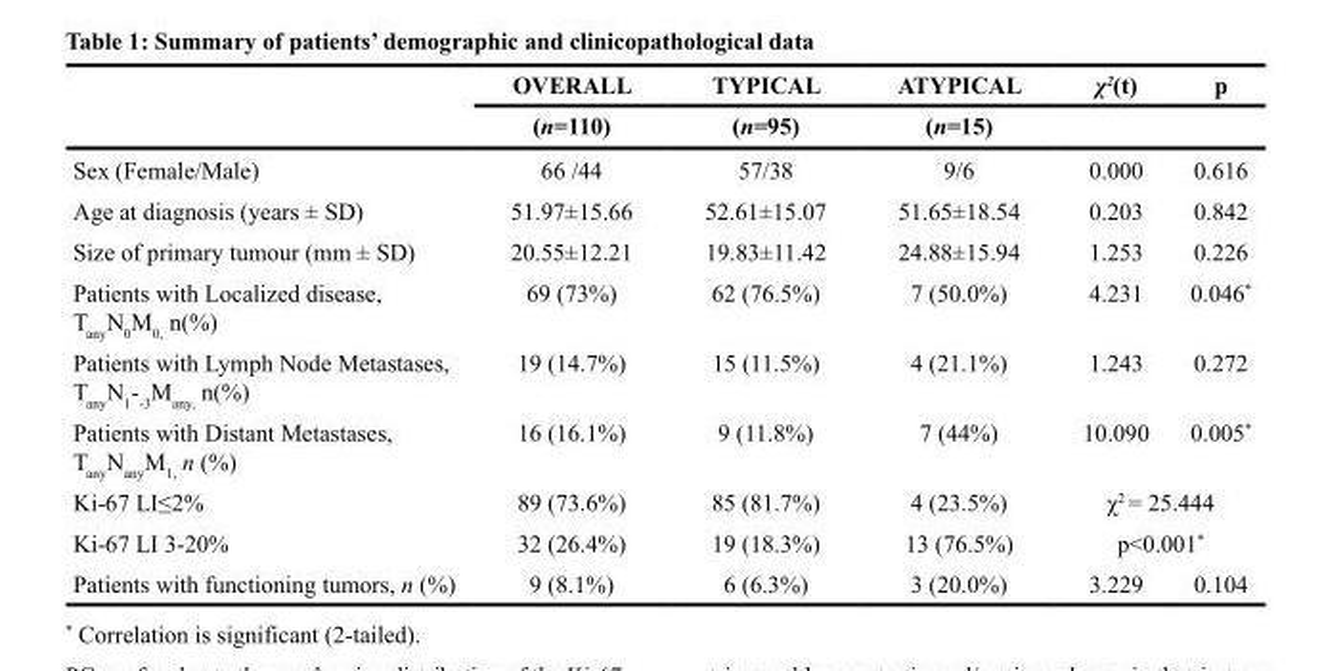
<table><thead><tr><td rowspan="2"></td><td rowspan="2">OVERALL (n=110)</td><td rowspan="2">TYPICAL (n=95)</td><td rowspan="2">ATYPICAL (n=15)</td><td rowspan="2">χ<sup>2</sup>(t)</td><td rowspan="2">p</td></tr><tr></tr></thead><tbody><tr><td>Sex (Female/Male)</td><td>66 /44</td><td>57/38</td><td>9/6</td><td>0.000</td><td>0.616</td></tr><tr><td>Age at diagnosis (years ± SD)</td><td>51.97±15.66</td><td>52.61±15.07</td><td>51.65±18.54</td><td>0.203</td><td>0.842</td></tr><tr><td>Size of primary tumour (mm ± SD)</td><td>20.55±12.21</td><td>19.83±11.42</td><td>24.88±15.94</td><td>1.253</td><td>0.226</td></tr><tr><td>Patients with Localized disease, T<sub>any</sub>N<sub>0</sub>M<sub>0,</sub> n(%)</td><td>69 (73%)</td><td>62 (76.5%)</td><td>7 (50.0%)</td><td>4.231</td><td>0.046*</td></tr><tr><td>Patients with Lymph Node Metastases, T<sub>any</sub>N<sub>1</sub>-<sub>-3</sub>M<sub>any,</sub> n(%)</td><td>19 (14.7%)</td><td>15 (11.5%)</td><td>4 (21.1%)</td><td>1.243</td><td>0.272</td></tr><tr><td>Patients with Distant Metastases, T<sub>any</sub>N<sub>any</sub>M<sub>1,</sub> n (%)</td><td>16 (16.1%)</td><td>9 (11.8%)</td><td>7 (44%)</td><td>10.090</td><td>0.005*</td></tr><tr><td>Ki-67 LI≤2%</td><td>89 (73.6%)</td><td>85 (81.7%)</td><td>4 (23.5%)</td><td colspan="2">χ2 = 25.444</td></tr><tr><td>Ki-67 LI 3-20%</td><td>32 (26.4%)</td><td>19 (18.3%)</td><td>13 (76.5%)</td><td colspan="2">p&lt;0.001*</td></tr><tr><td>Patients with functioning tumors, n (%)</td><td>9 (8.1%)</td><td>6 (6.3%)</td><td>3 (20.0%)</td><td>3.229</td><td>0.104</td></tr></tbody></table>